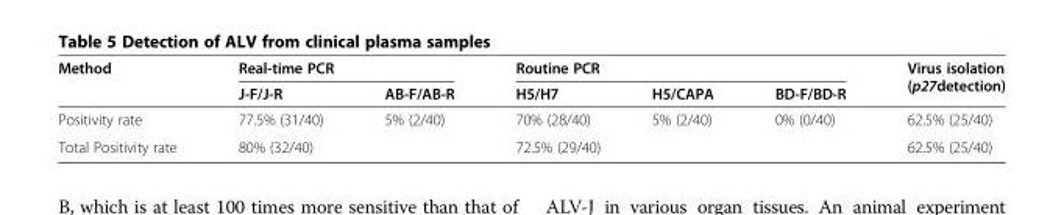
<table><thead><tr><td rowspan="2">Method</td><td colspan="2">Real-time PCR</td><td colspan="3">Routine PCR</td><td rowspan="2">Virus isolation (p27detection)</td></tr><tr><td>J-F/J-R</td><td>AB-F/AB-R</td><td>H5/H7</td><td>H5/CAPA</td><td>BD-F/BD-R</td></tr></thead><tbody><tr><td>Positivity rate</td><td>77.5% (31/40)</td><td>5% (2/40)</td><td>70% (28/40)</td><td>5% (2/40)</td><td>0% (0/40)</td><td>62.5% (25/40)</td></tr><tr><td>Total Positivity rate</td><td colspan="2">80% (32/40)</td><td colspan="3">72.5% (29/40)</td><td>62.5% (25/40)</td></tr></tbody></table>